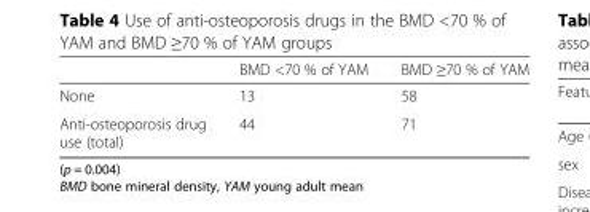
<table><thead><tr><td></td><td>BMD &lt;70 % of YAM</td><td>BMD ≥70 % of YAM</td></tr></thead><tbody><tr><td>None</td><td>13</td><td>58</td></tr><tr><td>Anti-osteoporosis drug use (total)</td><td>44</td><td>71</td></tr></tbody></table>